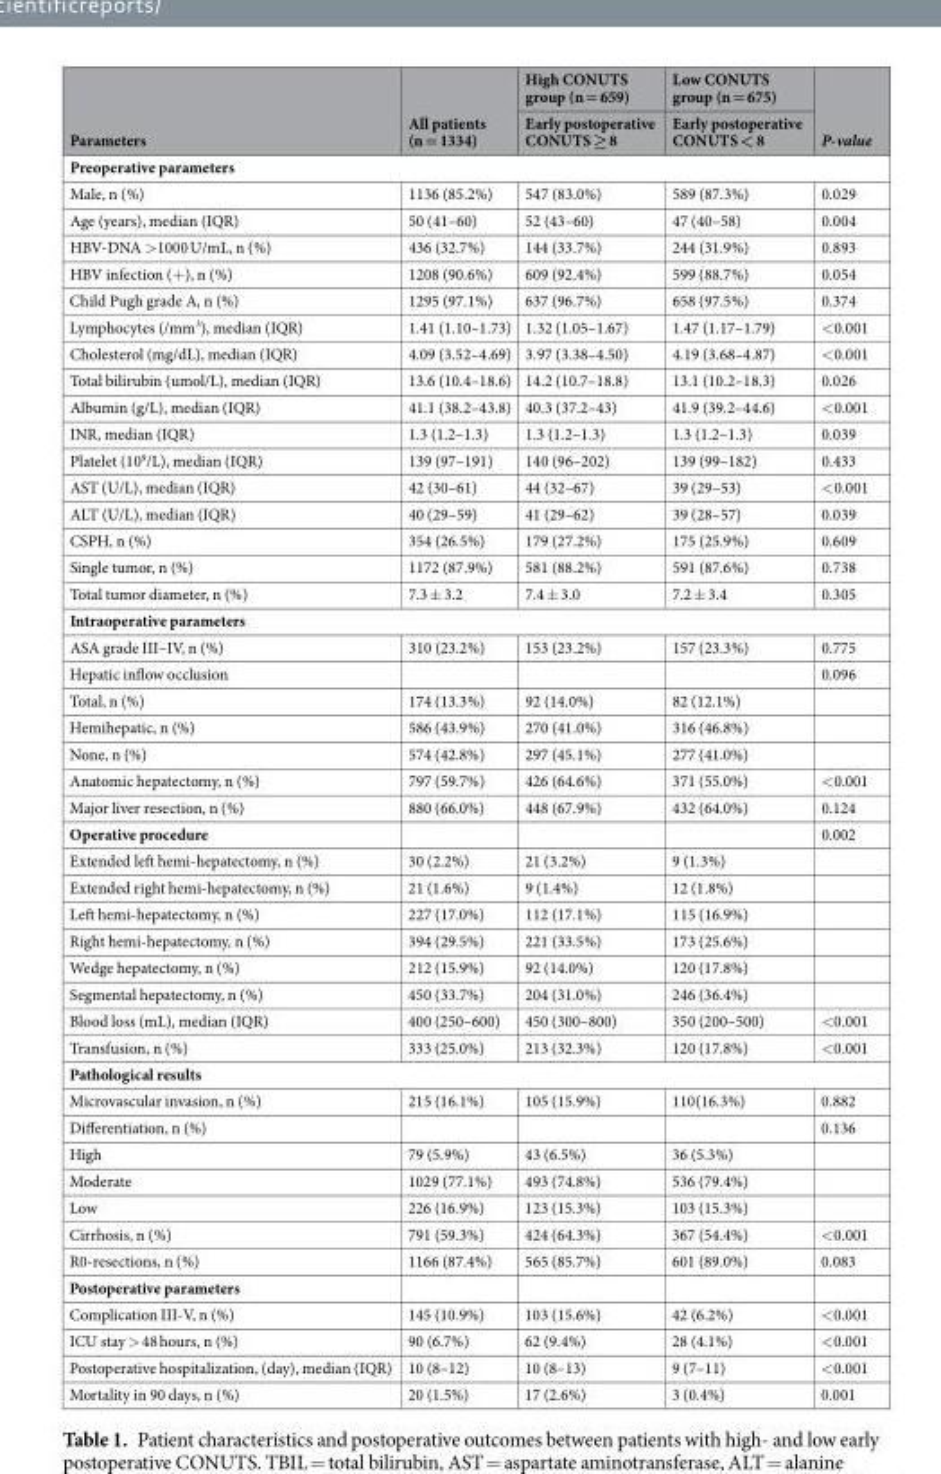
<table><thead><tr><td rowspan="2">Parameters</td><td rowspan="2">All patients (n = 1334)</td><td rowspan="2">High CONUTS group (n = 659) Early postoperative CONUTS ≥ 8</td><td rowspan="2">Low CONUTS group (n = 675) Early postoperative CONUTS &lt; 8</td><td rowspan="2">P-value</td></tr><tr></tr></thead><tbody><tr><td colspan="5">Preoperative parameters</td></tr><tr><td>Male, n (%)</td><td>1136 (85.2%)</td><td>547 (83.0%)</td><td>589 (87.3%)</td><td>0.029</td></tr><tr><td>Age (years), median (IQR)</td><td>50 (41–60)</td><td>52 (43–60)</td><td>47 (40–58)</td><td>0.004</td></tr><tr><td>HBV-DNA &gt;1000 U/mL, n (%)</td><td>436 (32.7%)</td><td>144 (33.7%)</td><td>244 (31.9%)</td><td>0.893</td></tr><tr><td>HBV infection (+), n (%)</td><td>1208 (90.6%)</td><td>609 (92.4%)</td><td>599 (88.7%)</td><td>0.054</td></tr><tr><td>Child Pugh grade A, n (%)</td><td>1295 (97.1%)</td><td>637 (96.7%)</td><td>658 (97.5%)</td><td>0.374</td></tr><tr><td>Lymphocytes (/mm<sup>3</sup>), median (IQR)</td><td>1.41 (1.10–1.73)</td><td>1.32 (1.05–1.67)</td><td>1.47 (1.17–1.79)</td><td>&lt;0.001</td></tr><tr><td>Cholesterol (mg/dL), median (IQR)</td><td>4.09 (3.52–4.69)</td><td>3.97 (3.38–4.50)</td><td>4.19 (3.68–4.87)</td><td>&lt;0.001</td></tr><tr><td>Total bilirubin (umol/L), median (IQR)</td><td>13.6 (10.4–18.6)</td><td>14.2 (10.7–18.8)</td><td>13.1 (10.2–18.3)</td><td>0.026</td></tr><tr><td>Albumin (g/L), median (IQR)</td><td>41.1 (38.2–43.8)</td><td>40.3 (37.2–43)</td><td>41.9 (39.2–44.6)</td><td>&lt;0.001</td></tr><tr><td>INR, median (IQR)</td><td>1.3 (1.2–1.3)</td><td>1.3 (1.2–1.3)</td><td>1.3 (1.2–1.3)</td><td>0.039</td></tr><tr><td>Platelet (10<sup>9</sup>/L), median (IQR)</td><td>139 (97–191)</td><td>140 (96–202)</td><td>139 (99–182)</td><td>0.433</td></tr><tr><td>AST (U/L), median (IQR)</td><td>42 (30–61)</td><td>44 (32–67)</td><td>39 (29–53)</td><td>&lt;0.001</td></tr><tr><td>ALT (U/L), median (IQR)</td><td>40 (29–59)</td><td>41 (29–62)</td><td>39 (28–57)</td><td>0.039</td></tr><tr><td>CSPH, n (%)</td><td>354 (26.5%)</td><td>179 (27.2%)</td><td>175 (25.9%)</td><td>0.609</td></tr><tr><td>Single tumor, n (%)</td><td>1172 (87.9%)</td><td>581 (88.2%)</td><td>591 (87.6%)</td><td>0.738</td></tr><tr><td>Total tumor diameter, n (%)</td><td>7.3 ± 3.2</td><td>7.4 ± 3.0</td><td>7.2 ± 3.4</td><td>0.305</td></tr><tr><td colspan="5">Intraoperative parameters</td></tr><tr><td>ASA grade III–IV, n (%)</td><td>310 (23.2%)</td><td>153 (23.2%)</td><td>157 (23.3%)</td><td>0.775</td></tr><tr><td>Hepatic inflow occlusion</td><td></td><td></td><td></td><td>0.096</td></tr><tr><td>Total, n (%)</td><td>174 (13.3%)</td><td>92 (14.0%)</td><td>82 (12.1%)</td><td></td></tr><tr><td>Hemihepatic, n (%)</td><td>586 (43.9%)</td><td>270 (41.0%)</td><td>316 (46.8%)</td><td></td></tr><tr><td>None, n (%)</td><td>574 (42.8%)</td><td>297 (45.1%)</td><td>277 (41.0%)</td><td></td></tr><tr><td>Anatomic hepatectomy, n (%)</td><td>797 (59.7%)</td><td>426 (64.6%)</td><td>371 (55.0%)</td><td>&lt;0.001</td></tr><tr><td>Major liver resection, n (%)</td><td>880 (66.0%)</td><td>448 (67.9%)</td><td>432 (64.0%)</td><td>0.124</td></tr><tr><td>Operative procedure</td><td></td><td></td><td></td><td>0.002</td></tr><tr><td>Extended left hemi-hepatectomy, n (%)</td><td>30 (2.2%)</td><td>21 (3.2%)</td><td>9 (1.3%)</td><td></td></tr><tr><td>Extended right hemi-hepatectomy, n (%)</td><td>21 (1.6%)</td><td>9 (1.4%)</td><td>12 (1.8%)</td><td></td></tr><tr><td>Left hemi-hepatectomy, n (%)</td><td>227 (17.0%)</td><td>112 (17.1%)</td><td>115 (16.9%)</td><td></td></tr><tr><td>Right hemi-hepatectomy, n (%)</td><td>394 (29.5%)</td><td>221 (33.5%)</td><td>173 (25.6%)</td><td></td></tr><tr><td>Wedge hepatectomy, n (%)</td><td>212 (15.9%)</td><td>92 (14.0%)</td><td>120 (17.8%)</td><td></td></tr><tr><td>Segmental hepatectomy, n (%)</td><td>450 (33.7%)</td><td>204 (31.0%)</td><td>246 (36.4%)</td><td></td></tr><tr><td>Blood loss (mL), median (IQR)</td><td>400 (250–600)</td><td>450 (300–800)</td><td>350 (200–500)</td><td>&lt;0.001</td></tr><tr><td>Transfusion, n (%)</td><td>333 (25.0%)</td><td>213 (32.3%)</td><td>120 (17.8%)</td><td>&lt;0.001</td></tr><tr><td colspan="5">Pathological results</td></tr><tr><td>Microvascular invasion, n (%)</td><td>215 (16.1%)</td><td>105 (15.9%)</td><td>110(16.3%)</td><td>0.882</td></tr><tr><td>Differentiation, n (%)</td><td></td><td></td><td></td><td>0.136</td></tr><tr><td>High</td><td>79 (5.9%)</td><td>43 (6.5%)</td><td>36 (5.3%)</td><td></td></tr><tr><td>Moderate</td><td>1029 (77.1%)</td><td>493 (74.8%)</td><td>536 (79.4%)</td><td></td></tr><tr><td>Low</td><td>226 (16.9%)</td><td>123 (15.3%)</td><td>103 (15.3%)</td><td></td></tr><tr><td>Cirrhosis, n (%)</td><td>791 (59.3%)</td><td>424 (64.3%)</td><td>367 (54.4%)</td><td>&lt;0.001</td></tr><tr><td>R0-resections, n (%)</td><td>1166 (87.4%)</td><td>565 (85.7%)</td><td>601 (89.0%)</td><td>0.083</td></tr><tr><td colspan="5">Postoperative parameters</td></tr><tr><td>Complication III-V, n (%)</td><td>145 (10.9%)</td><td>103 (15.6%)</td><td>42 (6.2%)</td><td>&lt;0.001</td></tr><tr><td>ICU stay &gt; 48 hours, n (%)</td><td>90 (6.7%)</td><td>62 (9.4%)</td><td>28 (4.1%)</td><td>&lt;0.001</td></tr><tr><td>Postoperative hospitalization, (day), median (IQR)</td><td>10 (8–12)</td><td>10 (8–13)</td><td>9 (7–11)</td><td>&lt;0.001</td></tr><tr><td>Mortality in 90 days, n (%)</td><td>20 (1.5%)</td><td>17 (2.6%)</td><td>3 (0.4%)</td><td>0.001</td></tr></tbody></table>